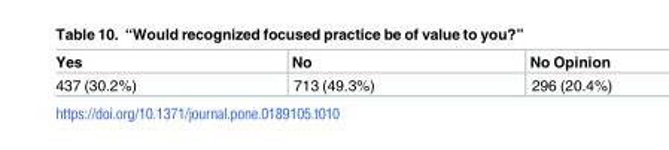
<table><thead><tr><td>Yes</td><td>No</td><td>No Opinion</td></tr></thead><tbody><tr><td>437 (30.2%)</td><td>713 (49.3%)</td><td>296 (20.4%)</td></tr></tbody></table>